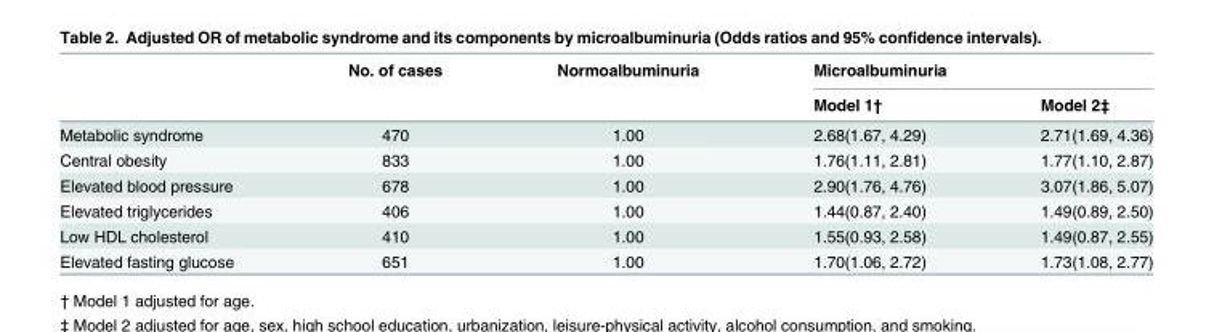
<table><thead><tr><td rowspan="2"></td><td rowspan="2">No. of cases</td><td rowspan="2">Normoalbuminuria</td><td colspan="2">Microalbuminuria</td></tr><tr><td>Model 1†</td><td>Model 2‡</td></tr></thead><tbody><tr><td>Metabolic syndrome</td><td>470</td><td>1.00</td><td>2.68(1.67, 4.29)</td><td>2.71(1.69, 4.36)</td></tr><tr><td>Central obesity</td><td>833</td><td>1.00</td><td>1.76(1.11, 2.81)</td><td>1.77(1.10, 2.87)</td></tr><tr><td>Elevated blood pressure</td><td>678</td><td>1.00</td><td>2.90(1.76, 4.76)</td><td>3.07(1.86, 5.07)</td></tr><tr><td>Elevated triglycerides</td><td>406</td><td>1.00</td><td>1.44(0.87, 2.40)</td><td>1.49(0.89, 2.50)</td></tr><tr><td>Low HDL cholesterol</td><td>410</td><td>1.00</td><td>1.55(0.93, 2.58)</td><td>1.49(0.87, 2.55)</td></tr><tr><td>Elevated fasting glucose</td><td>651</td><td>1.00</td><td>1.70(1.06, 2.72)</td><td>1.73(1.08, 2.77)</td></tr></tbody></table>